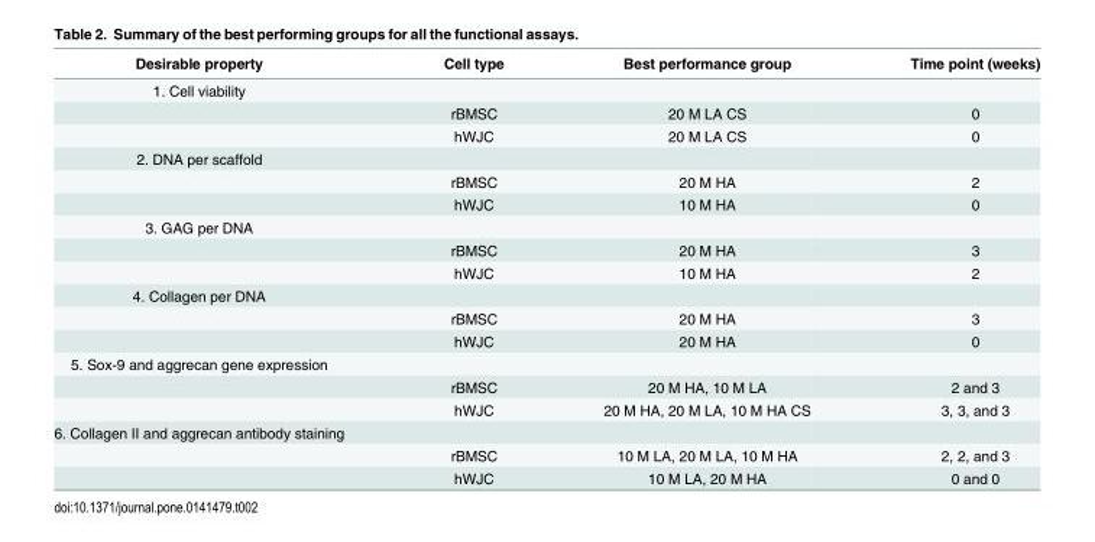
<table><thead><tr><td>Desirable property</td><td>Cell type</td><td>Best performance group</td><td>Time point (weeks)</td></tr></thead><tbody><tr><td colspan="4">1. Cell viability</td></tr><tr><td></td><td>rBMSC</td><td>20 M LA CS</td><td>0</td></tr><tr><td></td><td>hWJC</td><td>20 M LA CS</td><td>0</td></tr><tr><td colspan="4">2. DNA per scaffold</td></tr><tr><td></td><td>rBMSC</td><td>20 M HA</td><td>2</td></tr><tr><td></td><td>hWJC</td><td>10 M HA</td><td>0</td></tr><tr><td colspan="4">3. GAG per DNA</td></tr><tr><td></td><td>rBMSC</td><td>20 M HA</td><td>3</td></tr><tr><td></td><td>hWJC</td><td>10 M HA</td><td>2</td></tr><tr><td colspan="4">4. Collagen per DNA</td></tr><tr><td></td><td>rBMSC</td><td>20 M HA</td><td>3</td></tr><tr><td></td><td>hWJC</td><td>20 M HA</td><td>0</td></tr><tr><td colspan="4">5. Sox-9 and aggrecan gene expression</td></tr><tr><td></td><td>rBMSC</td><td>20 M HA, 10 M LA</td><td>2 and 3</td></tr><tr><td></td><td>hWJC</td><td>20 M HA, 20 M LA, 10 M HA CS</td><td>3, 3, and 3</td></tr><tr><td colspan="4">6. Collagen II and aggrecan antibody staining</td></tr><tr><td></td><td>rBMSC</td><td>10 M LA, 20 M LA, 10 M HA</td><td>2, 2, and 3</td></tr><tr><td></td><td>hWJC</td><td>10 M LA, 20 M HA</td><td>0 and 0</td></tr></tbody></table>